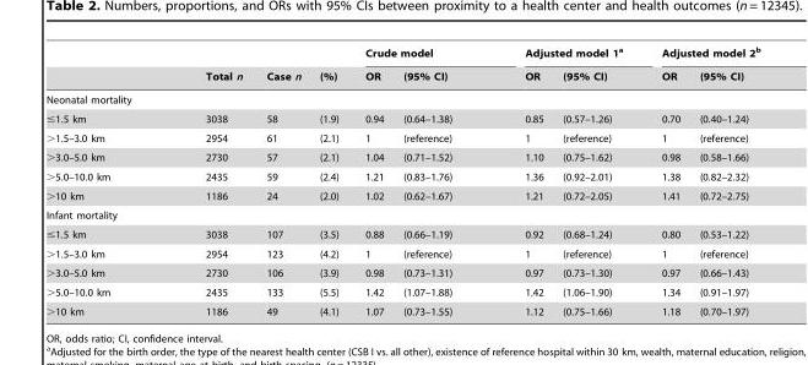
<table><thead><tr><td rowspan="2"></td><td rowspan="2">Total n</td><td rowspan="2">Case n</td><td rowspan="2">(%)</td><td colspan="2">Crude model</td><td colspan="2">Adjusted model 1<sup>a</sup></td><td colspan="2">Adjusted model 2<sup>b</sup></td></tr><tr><td>OR</td><td>(95% CI)</td><td>OR</td><td>(95% CI)</td><td>OR</td><td>(95% CI)</td></tr></thead><tbody><tr><td colspan="10">Neonatal mortality</td></tr><tr><td>≤1.5 km</td><td>3038</td><td>58</td><td>(1.9)</td><td>0.94</td><td>(0.64–1.38)</td><td>0.85</td><td>(0.57–1.26)</td><td>0.70</td><td>(0.40–1.24)</td></tr><tr><td>&gt;1.5–3.0 km</td><td>2954</td><td>61</td><td>(2.1)</td><td>1</td><td>(reference)</td><td>1</td><td>(reference)</td><td>1</td><td>(reference)</td></tr><tr><td>&gt;3.0–5.0 km</td><td>2730</td><td>57</td><td>(2.1)</td><td>1.04</td><td>(0.71–1.52)</td><td>1.10</td><td>(0.75–1.62)</td><td>0.98</td><td>(0.58–1.66)</td></tr><tr><td>&gt;5.0–10.0 km</td><td>2435</td><td>59</td><td>(2.4)</td><td>1.21</td><td>(0.83–1.76)</td><td>1.36</td><td>(0.92–2.01)</td><td>1.38</td><td>(0.82–2.32)</td></tr><tr><td>&gt;10 km</td><td>1186</td><td>24</td><td>(2.0)</td><td>1.02</td><td>(0.62–1.67)</td><td>1.21</td><td>(0.72–2.05)</td><td>1.41</td><td>(0.72–2.75)</td></tr><tr><td colspan="10">Infant mortality</td></tr><tr><td>≤1.5 km</td><td>3038</td><td>107</td><td>(3.5)</td><td>0.88</td><td>(0.66–1.19)</td><td>0.92</td><td>(0.68–1.24)</td><td>0.80</td><td>(0.53–1.22)</td></tr><tr><td>&gt;1.5–3.0 km</td><td>2954</td><td>123</td><td>(4.2)</td><td>1</td><td>(reference)</td><td>1</td><td>(reference)</td><td>1</td><td>(reference)</td></tr><tr><td>&gt;3.0–5.0 km</td><td>2730</td><td>106</td><td>(3.9)</td><td>0.98</td><td>(0.73–1.31)</td><td>0.97</td><td>(0.73–1.30)</td><td>0.97</td><td>(0.66–1.43)</td></tr><tr><td>&gt;5.0–10.0 km</td><td>2435</td><td>133</td><td>(5.5)</td><td>1.42</td><td>(1.07–1.88)</td><td>1.42</td><td>(1.06–1.90)</td><td>1.34</td><td>(0.91–1.97)</td></tr><tr><td>&gt;10 km</td><td>1186</td><td>49</td><td>(4.1)</td><td>1.07</td><td>(0.73–1.55)</td><td>1.12</td><td>(0.75–1.66)</td><td>1.18</td><td>(0.70–1.97)</td></tr></tbody></table>